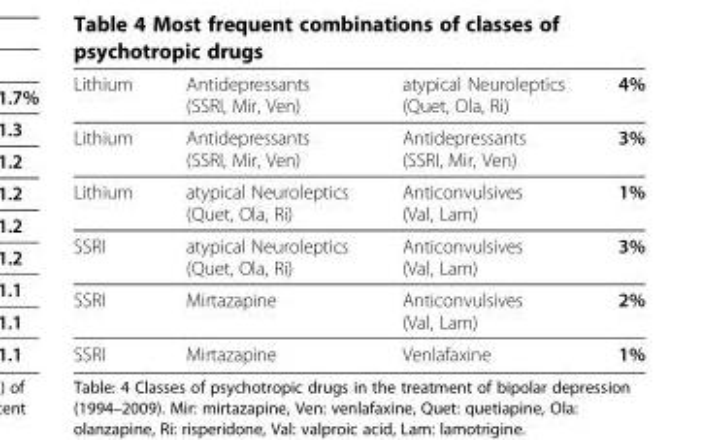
<table><tbody><tr><td>Lithium</td><td>Antidepressants (SSRI, Mir, Ven)</td><td>atypical Neuroleptics (Quet, Ola, Ri)</td><td>4%</td></tr><tr><td>Lithium</td><td>Antidepressants (SSRI, Mir, Ven)</td><td>Antidepressants (SSRI, Mir, Ven)</td><td>3%</td></tr><tr><td>Lithium</td><td>atypical Neuroleptics (Quet, Ola, Ri)</td><td>Anticonvulsives (Val, Lam)</td><td>1%</td></tr><tr><td>SSRI</td><td>atypical Neuroleptics (Quet, Ola, Ri)</td><td>Anticonvulsives (Val, Lam)</td><td>3%</td></tr><tr><td>SSRI</td><td>Mirtazapine</td><td>Anticonvulsives (Val, Lam)</td><td>2%</td></tr><tr><td>SSRI</td><td>Mirtazapine</td><td>Venlafaxine</td><td>1%</td></tr></tbody></table>